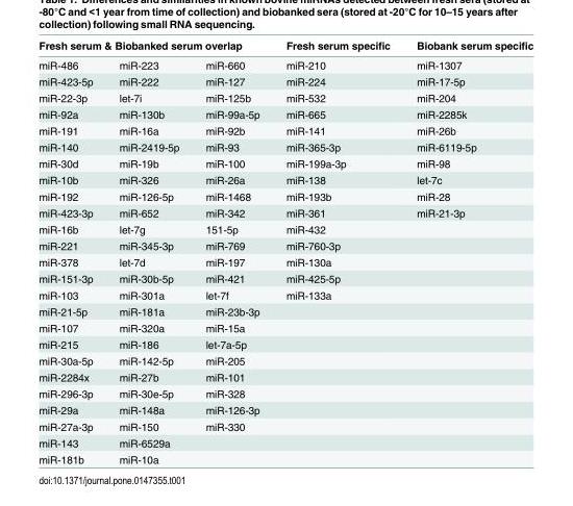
<table><thead><tr><td colspan="3">Fresh serum &amp; Biobanked serum overlap</td><td rowspan="2">Fresh serum specific miR-210</td><td rowspan="2">Biobank serum specific miR-1307</td></tr><tr><td>miR-486</td><td>miR-223</td><td>miR-660</td></tr></thead><tbody><tr><td>miR-423-5p</td><td>miR-222</td><td>miR-127</td><td>miR-224</td><td>miR-17-5p</td></tr><tr><td>miR-22-3p</td><td>let-7i</td><td>miR-125b</td><td>miR-532</td><td>miR-204</td></tr><tr><td>miR-92a</td><td>miR-130b</td><td>miR-99a-5p</td><td>miR-665</td><td>miR-2285k</td></tr><tr><td>miR-191</td><td>miR-16a</td><td>miR-92b</td><td>miR-141</td><td>miR-26b</td></tr><tr><td>miR-140</td><td>miR-2419-5p</td><td>miR-93</td><td>miR-365-3p</td><td>miR-6119-5p</td></tr><tr><td>miR-30d</td><td>miR-19b</td><td>miR-100</td><td>miR-199a-3p</td><td>miR-98</td></tr><tr><td>miR-10b</td><td>miR-326</td><td>miR-26a</td><td>miR-138</td><td>let-7c</td></tr><tr><td>miR-192</td><td>miR-126-5p</td><td>miR-1468</td><td>miR-193b</td><td>miR-28</td></tr><tr><td>miR-423-3p</td><td>miR-652</td><td>miR-342</td><td>miR-361</td><td>miR-21-3p</td></tr><tr><td>miR-16b</td><td>let-7g</td><td>151-5p</td><td>miR-432</td><td></td></tr><tr><td>miR-221</td><td>miR-345-3p</td><td>miR-769</td><td>miR-760-3p</td><td></td></tr><tr><td>miR-378</td><td>let-7d</td><td>miR-197</td><td>miR-130a</td><td></td></tr><tr><td>miR-151-3p</td><td>miR-30b-5p</td><td>miR-421</td><td>miR-425-5p</td><td></td></tr><tr><td>miR-103</td><td>miR-301a</td><td>let-7f</td><td>miR-133a</td><td></td></tr><tr><td>miR-21-5p</td><td>miR-181a</td><td>miR-23b-3p</td><td></td><td></td></tr><tr><td>miR-107</td><td>miR-320a</td><td>miR-15a</td><td></td><td></td></tr><tr><td>miR-215</td><td>miR-186</td><td>let-7a-5p</td><td></td><td></td></tr><tr><td>miR-30a-5p</td><td>miR-142-5p</td><td>miR-205</td><td></td><td></td></tr><tr><td>miR-2284x</td><td>miR-27b</td><td>miR-101</td><td></td><td></td></tr><tr><td>miR-296-3p</td><td>miR-30e-5p</td><td>miR-328</td><td></td><td></td></tr><tr><td>miR-29a</td><td>miR-148a</td><td>miR-126-3p</td><td></td><td></td></tr><tr><td>miR-27a-3p</td><td>miR-150</td><td>miR-330</td><td></td><td></td></tr><tr><td>miR-143</td><td>miR-6529a</td><td></td><td></td><td></td></tr><tr><td>miR-181b</td><td>miR-10a</td><td></td><td></td><td></td></tr></tbody></table>